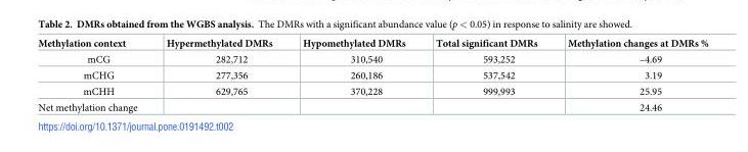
<table><thead><tr><td>Methylation context</td><td>Hypermethylated DMRs</td><td>Hypomethylated DMRs</td><td>Total significant DMRs</td><td>Methylation changes at DMRs %</td></tr></thead><tbody><tr><td>mCG</td><td>282,712</td><td>310,540</td><td>593,252</td><td>–4.69</td></tr><tr><td>mCHG</td><td>277,356</td><td>260,186</td><td>537,542</td><td>3.19</td></tr><tr><td>mCHH</td><td>629,765</td><td>370,228</td><td>999,993</td><td>25.95</td></tr><tr><td>Net methylation change</td><td></td><td></td><td></td><td>24.46</td></tr></tbody></table>